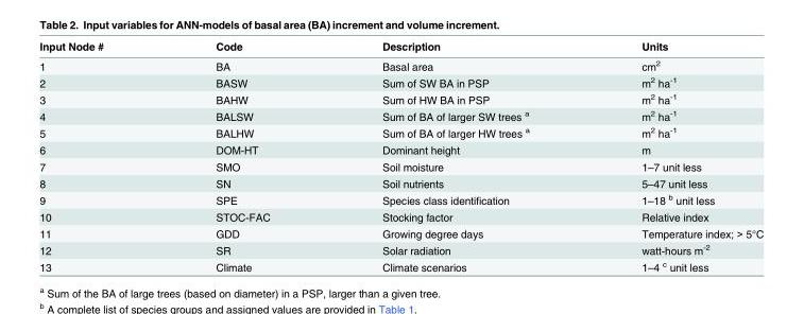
<table><thead><tr><td>Input Node #</td><td>Code</td><td>Description</td><td>Units</td></tr></thead><tbody><tr><td>1</td><td>BA</td><td>Basal area</td><td>cm<sup>2</sup></td></tr><tr><td>2</td><td>BASW</td><td>Sum of SW BA in PSP</td><td>m<sup>2</sup> ha<sup>-1</sup></td></tr><tr><td>3</td><td>BAHW</td><td>Sum of HW BA in PSP</td><td>m<sup>2</sup> ha<sup>-1</sup></td></tr><tr><td>4</td><td>BALSW</td><td>Sum of BA of larger SW trees <sup>a</sup></td><td>m<sup>2</sup> ha<sup>-1</sup></td></tr><tr><td>5</td><td>BALHW</td><td>Sum of BA of larger HW trees <sup>a</sup></td><td>m<sup>2</sup> ha<sup>-1</sup></td></tr><tr><td>6</td><td>DOM-HT</td><td>Dominant height</td><td>m</td></tr><tr><td>7</td><td>SMO</td><td>Soil moisture</td><td>1–7 unit less</td></tr><tr><td>8</td><td>SN</td><td>Soil nutrients</td><td>5–47 unit less</td></tr><tr><td>9</td><td>SPE</td><td>Species class identification</td><td>1–18 <sup>b</sup> unit less</td></tr><tr><td>10</td><td>STOC-FAC</td><td>Stocking factor</td><td>Relative index</td></tr><tr><td>11</td><td>GDD</td><td>Growing degree days</td><td>Temperature index; &gt; 5°C</td></tr><tr><td>12</td><td>SR</td><td>Solar radiation</td><td>watt-hours m<sup>-2</sup></td></tr><tr><td>13</td><td>Climate</td><td>Climate scenarios</td><td>1–4 <sup>c</sup> unit less</td></tr></tbody></table>